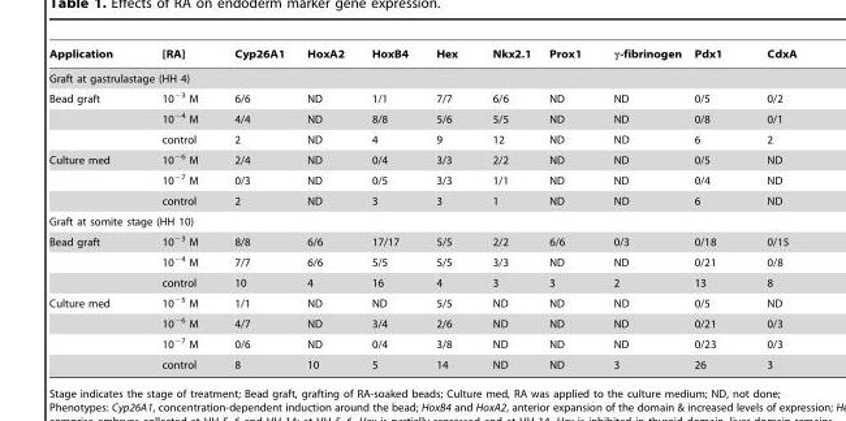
<table><thead><tr><td>Application</td><td>[RA]</td><td>Cyp26A1</td><td>HoxA2</td><td>HoxB4</td><td>Hex</td><td>Nkx2.1</td><td>Prox1</td><td>γ-fibrinogen</td><td>Pdx1</td><td>CdxA</td></tr></thead><tbody><tr><td colspan="11">Graft at gastrulastage (HH 4)</td></tr><tr><td rowspan="3">Bead graft</td><td>10<sup>−3</sup> M</td><td>6/6</td><td>ND</td><td>1/1</td><td>7/7</td><td>6/6</td><td>ND</td><td>ND</td><td>0/5</td><td>0/2</td></tr><tr><td>10<sup>−4</sup> M</td><td>4/4</td><td>ND</td><td>8/8</td><td>5/6</td><td>5/5</td><td>ND</td><td>ND</td><td>0/8</td><td>0/1</td></tr><tr><td>control</td><td>2</td><td>ND</td><td>4</td><td>9</td><td>12</td><td>ND</td><td>ND</td><td>6</td><td>2</td></tr><tr><td rowspan="3">Culture med</td><td>10<sup>−6</sup> M</td><td>2/4</td><td>ND</td><td>0/4</td><td>3/3</td><td>2/2</td><td>ND</td><td>ND</td><td>0/5</td><td>ND</td></tr><tr><td>10<sup>−7</sup> M</td><td>0/3</td><td>ND</td><td>0/5</td><td>3/3</td><td>1/1</td><td>ND</td><td>ND</td><td>0/4</td><td>ND</td></tr><tr><td>control</td><td>2</td><td>ND</td><td>3</td><td>3</td><td>1</td><td>ND</td><td>ND</td><td>6</td><td>ND</td></tr><tr><td colspan="11">Graft at somite stage (HH 10)</td></tr><tr><td rowspan="3">Bead graft</td><td>10<sup>−3</sup> M</td><td>8/8</td><td>6/6</td><td>17/17</td><td>5/5</td><td>2/2</td><td>6/6</td><td>0/3</td><td>0/18</td><td>0/15</td></tr><tr><td>10<sup>−4</sup> M</td><td>7/7</td><td>6/6</td><td>5/5</td><td>5/5</td><td>3/3</td><td>ND</td><td>ND</td><td>0/21</td><td>0/8</td></tr><tr><td>control</td><td>10</td><td>4</td><td>16</td><td>4</td><td>3</td><td>3</td><td>2</td><td>13</td><td>8</td></tr><tr><td rowspan="4">Culture med</td><td>10<sup>−5</sup> M</td><td>1/1</td><td>ND</td><td>ND</td><td>5/5</td><td>ND</td><td>ND</td><td>ND</td><td>0/5</td><td>ND</td></tr><tr><td>10<sup>−6</sup> M</td><td>4/7</td><td>ND</td><td>3/4</td><td>2/6</td><td>ND</td><td>ND</td><td>ND</td><td>0/21</td><td>0/3</td></tr><tr><td>10<sup>−7</sup> M</td><td>0/6</td><td>ND</td><td>0/4</td><td>3/8</td><td>ND</td><td>ND</td><td>ND</td><td>0/23</td><td>0/3</td></tr><tr><td>control</td><td>8</td><td>10</td><td>5</td><td>14</td><td>ND</td><td>ND</td><td>3</td><td>26</td><td>3</td></tr></tbody></table>